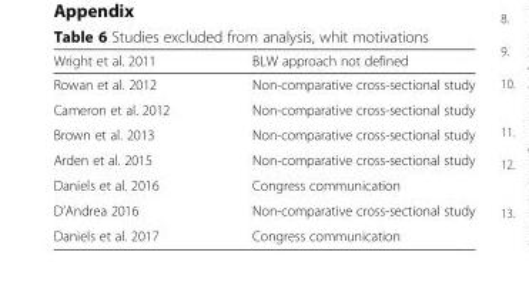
<table><thead><tr><td>Wright et al. 2011</td><td>BLW approach not defined</td></tr></thead><tbody><tr><td>Rowan et al. 2012</td><td>Non-comparative cross-sectional study</td></tr><tr><td>Cameron et al. 2012</td><td>Non-comparative cross-sectional study</td></tr><tr><td>Brown et al. 2013</td><td>Non-comparative cross-sectional study</td></tr><tr><td>Arden et al. 2015</td><td>Non-comparative cross-sectional study</td></tr><tr><td>Daniels et al. 2016</td><td>Congress communication</td></tr><tr><td>D’Andrea 2016</td><td>Non-comparative cross-sectional study</td></tr><tr><td>Daniels et al. 2017</td><td>Congress communication</td></tr></tbody></table>